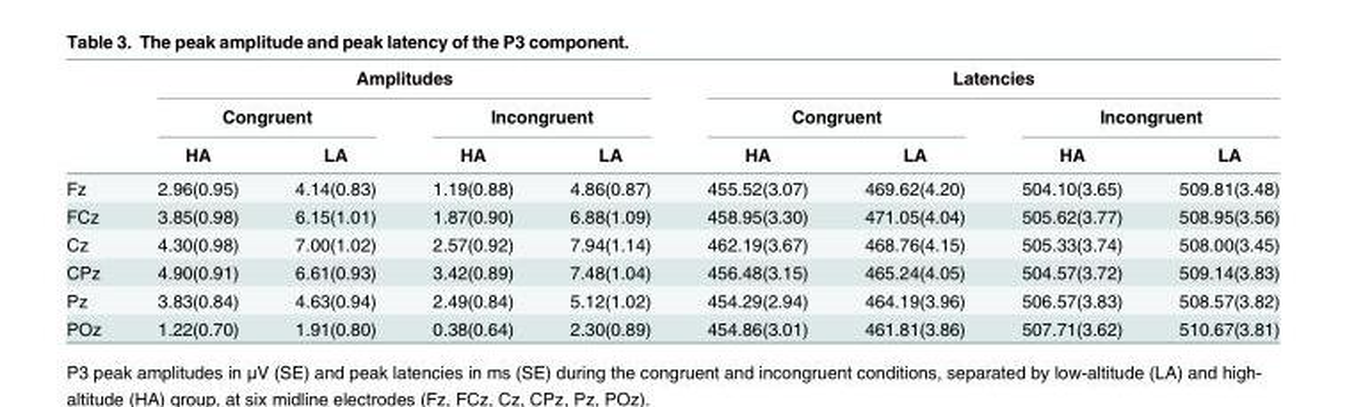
<table><thead><tr><td rowspan="3"></td><td colspan="4">Amplitudes</td><td colspan="4">Latencies</td></tr><tr><td colspan="2">Congruent</td><td colspan="2">Incongruent</td><td colspan="2">Congruent</td><td colspan="2">Incongruent</td></tr><tr><td>HA</td><td>LA</td><td>HA</td><td>LA</td><td>HA</td><td>LA</td><td>HA</td><td>LA</td></tr></thead><tbody><tr><td>Fz</td><td>2.96(0.95)</td><td>4.14(0.83)</td><td>1.19(0.88)</td><td>4.86(0.87)</td><td>455.52(3.07)</td><td>469.62(4.20)</td><td>504.10(3.65)</td><td>509.81(3.48)</td></tr><tr><td>FCz</td><td>3.85(0.98)</td><td>6.15(1.01)</td><td>1.87(0.90)</td><td>6.88(1.09)</td><td>458.95(3.30)</td><td>471.05(4.04)</td><td>505.62(3.77)</td><td>508.95(3.56)</td></tr><tr><td>Cz</td><td>4.30(0.98)</td><td>7.00(1.02)</td><td>2.57(0.92)</td><td>7.94(1.14)</td><td>462.19(3.67)</td><td>468.76(4.15)</td><td>505.33(3.74)</td><td>508.00(3.45)</td></tr><tr><td>CPz</td><td>4.90(0.91)</td><td>6.61(0.93)</td><td>3.42(0.89)</td><td>7.48(1.04)</td><td>456.48(3.15)</td><td>465.24(4.05)</td><td>504.57(3.72)</td><td>509.14(3.83)</td></tr><tr><td>Pz</td><td>3.83(0.84)</td><td>4.63(0.94)</td><td>2.49(0.84)</td><td>5.12(1.02)</td><td>454.29(2.94)</td><td>464.19(3.96)</td><td>506.57(3.83)</td><td>508.57(3.82)</td></tr><tr><td>POz</td><td>1.22(0.70)</td><td>1.91(0.80)</td><td>0.38(0.64)</td><td>2.30(0.89)</td><td>454.86(3.01)</td><td>461.81(3.86)</td><td>507.71(3.62)</td><td>510.67(3.81)</td></tr></tbody></table>